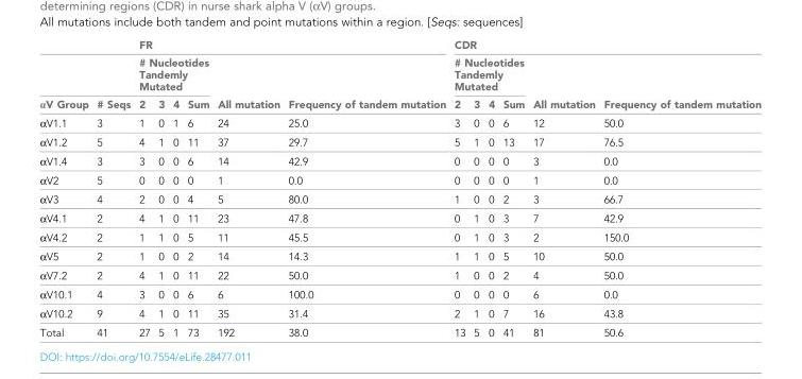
<table><thead><tr><td rowspan="3">αV Group</td><td rowspan="3"># Seqs</td><td colspan="6">FR</td><td colspan="6">CDR</td></tr><tr><td colspan="4"># Nucleotides Tandemly Mutated</td><td rowspan="2">All mutation</td><td rowspan="2">Frequency of tandem mutation</td><td colspan="4"># Nucleotides Tandemly Mutated</td><td rowspan="2">All mutation</td><td rowspan="2">Frequency of tandem mutation</td></tr><tr><td>2</td><td>3</td><td>4</td><td>Sum</td><td>2</td><td>3</td><td>4</td><td>Sum</td></tr></thead><tbody><tr><td>αV1.1</td><td>3</td><td>1</td><td>0</td><td>1</td><td>6</td><td>24</td><td>25.0</td><td>3</td><td>0</td><td>0</td><td>6</td><td>12</td><td>50.0</td></tr><tr><td>αV1.2</td><td>5</td><td>4</td><td>1</td><td>0</td><td>11</td><td>37</td><td>29.7</td><td>5</td><td>1</td><td>0</td><td>13</td><td>17</td><td>76.5</td></tr><tr><td>αV1.4</td><td>3</td><td>3</td><td>0</td><td>0</td><td>6</td><td>14</td><td>42.9</td><td>0</td><td>0</td><td>0</td><td>0</td><td>3</td><td>0.0</td></tr><tr><td>αV2</td><td>5</td><td>0</td><td>0</td><td>0</td><td>0</td><td>1</td><td>0.0</td><td>0</td><td>0</td><td>0</td><td>0</td><td>1</td><td>0.0</td></tr><tr><td>αV3</td><td>4</td><td>2</td><td>0</td><td>0</td><td>4</td><td>5</td><td>80.0</td><td>1</td><td>0</td><td>0</td><td>2</td><td>3</td><td>66.7</td></tr><tr><td>αV4.1</td><td>2</td><td>4</td><td>1</td><td>0</td><td>11</td><td>23</td><td>47.8</td><td>0</td><td>1</td><td>0</td><td>3</td><td>7</td><td>42.9</td></tr><tr><td>αV4.2</td><td>2</td><td>1</td><td>1</td><td>0</td><td>5</td><td>11</td><td>45.5</td><td>0</td><td>1</td><td>0</td><td>3</td><td>2</td><td>150.0</td></tr><tr><td>αV5</td><td>2</td><td>1</td><td>0</td><td>0</td><td>2</td><td>14</td><td>14.3</td><td>1</td><td>1</td><td>0</td><td>5</td><td>10</td><td>50.0</td></tr><tr><td>αV7.2</td><td>2</td><td>4</td><td>1</td><td>0</td><td>11</td><td>22</td><td>50.0</td><td>1</td><td>0</td><td>0</td><td>2</td><td>4</td><td>50.0</td></tr><tr><td>αV10.1</td><td>4</td><td>3</td><td>0</td><td>0</td><td>6</td><td>6</td><td>100.0</td><td>0</td><td>0</td><td>0</td><td>0</td><td>6</td><td>0.0</td></tr><tr><td>αV10.2</td><td>9</td><td>4</td><td>1</td><td>0</td><td>11</td><td>35</td><td>31.4</td><td>2</td><td>1</td><td>0</td><td>7</td><td>16</td><td>43.8</td></tr><tr><td>Total</td><td>41</td><td>27</td><td>5</td><td>1</td><td>73</td><td>192</td><td>38.0</td><td>13</td><td>5</td><td>0</td><td>41</td><td>81</td><td>50.6</td></tr></tbody></table>